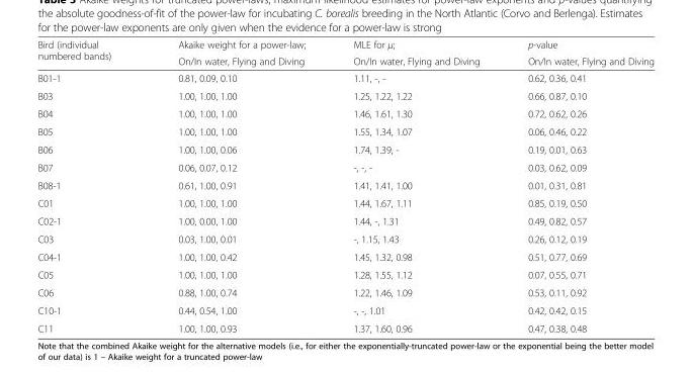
<table><thead><tr><td rowspan="2">Bird (individual numbered bands)</td><td rowspan="2">Akaike weight for a power-law; On/In water, Flying and Diving</td><td rowspan="2">MLE for μ; On/In water, Flying and Diving</td><td rowspan="2">p-value On/In water, Flying and Diving</td></tr><tr></tr></thead><tbody><tr><td>B01-1</td><td>0.81, 0.09, 0.10</td><td>1.11, -, -</td><td>0.62, 0.36, 0.41</td></tr><tr><td>B03</td><td>1.00, 1.00, 1.00</td><td>1.25, 1.22, 1.22</td><td>0.66, 0.87, 0.10</td></tr><tr><td>B04</td><td>1.00, 1.00, 1.00</td><td>1.46, 1.61, 1.30</td><td>0.72, 0.62, 0.26</td></tr><tr><td>B05</td><td>1.00, 1.00, 1.00</td><td>1.55, 1.34, 1.07</td><td>0.06, 0.46, 0.22</td></tr><tr><td>B06</td><td>1.00, 1.00, 0.06</td><td>1.74, 1.39, -</td><td>0.19, 0.01, 0.63</td></tr><tr><td>B07</td><td>0.06, 0.07, 0.12</td><td>-, -, -</td><td>0.03, 0.62, 0.09</td></tr><tr><td>B08-1</td><td>0.61, 1.00, 0.91</td><td>1.41, 1.41, 1.00</td><td>0.01, 0.31, 0.81</td></tr><tr><td>C01</td><td>1.00, 1.00, 1.00</td><td>1.44, 1.67, 1.11</td><td>0.85, 0.19, 0.50</td></tr><tr><td>C02-1</td><td>1.00, 0.00, 1.00</td><td>1.44, -, 1.31</td><td>0.49, 0.82, 0.57</td></tr><tr><td>C03</td><td>0.03, 1.00, 0.01</td><td>-, 1.15, 1.43</td><td>0.26, 0.12, 0.19</td></tr><tr><td>C04-1</td><td>1.00, 1.00, 0.42</td><td>1.45, 1.32, 0.98</td><td>0.51, 0.77, 0.69</td></tr><tr><td>C05</td><td>1.00, 1.00, 1.00</td><td>1.28, 1.55, 1.12</td><td>0.07, 0.55, 0.71</td></tr><tr><td>C06</td><td>0.88, 1.00, 0.74</td><td>1.22, 1.46, 1.09</td><td>0.53, 0.11, 0.92</td></tr><tr><td>C10-1</td><td>0.44, 0.54, 1.00</td><td>-, -, 1.01</td><td>0.42, 0.42, 0.15</td></tr><tr><td>C11</td><td>1.00, 1.00, 0.93</td><td>1.37, 1.60, 0.96</td><td>0.47, 0.38, 0.48</td></tr></tbody></table>